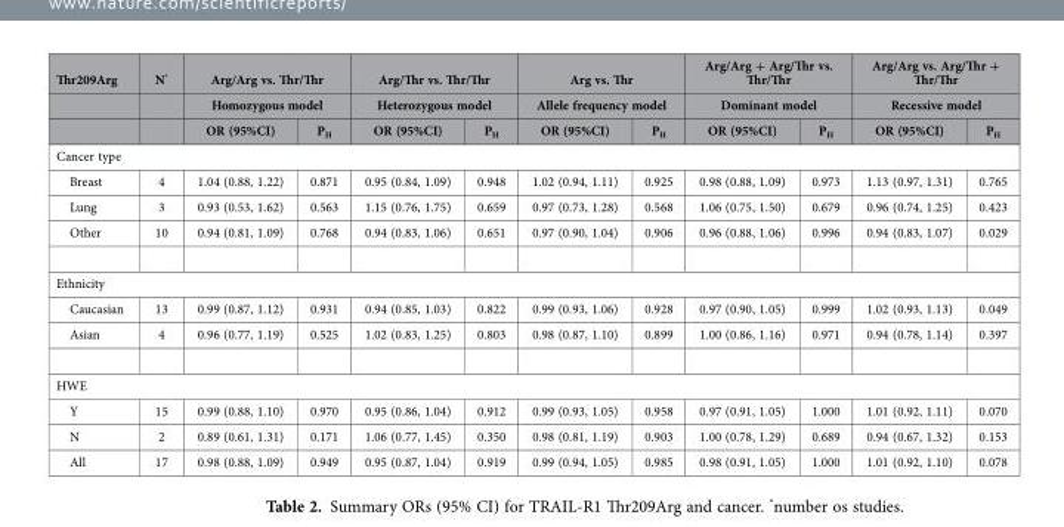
<table><thead><tr><td rowspan="3">Thr209Arg</td><td rowspan="3">N*</td><td rowspan="2" colspan="2">Arg/Arg vs. Thr/Thr Homozygous model</td><td rowspan="2" colspan="2">Arg/Thr vs. Thr/Thr Heterozygous model</td><td rowspan="2" colspan="2">Arg vs. Thr Allele frequency model</td><td rowspan="2" colspan="2">Arg/Arg + Arg/Thr vs. Thr/Thr Dominant model</td><td rowspan="2" colspan="2">Arg/Arg vs. Arg/Thr + Thr/Thr Recessive model</td></tr><tr></tr><tr><td>OR (95%CI)</td><td>P<sub>H</sub></td><td>OR (95%CI)</td><td>P<sub>H</sub></td><td>OR (95%CI)</td><td>P<sub>H</sub></td><td>OR (95%CI)</td><td>P<sub>H</sub></td><td>OR (95%CI)</td><td>P<sub>H</sub></td></tr></thead><tbody><tr><td colspan="12">Cancer type</td></tr><tr><td>Breast</td><td>4</td><td>1.04 (0.88, 1.22)</td><td>0.871</td><td>0.95 (0.84, 1.09)</td><td>0.948</td><td>1.02 (0.94, 1.11)</td><td>0.925</td><td>0.98 (0.88, 1.09)</td><td>0.973</td><td>1.13 (0.97, 1.31)</td><td>0.765</td></tr><tr><td>Lung</td><td>3</td><td>0.93 (0.53, 1.62)</td><td>0.563</td><td>1.15 (0.76, 1.75)</td><td>0.659</td><td>0.97 (0.73, 1.28)</td><td>0.568</td><td>1.06 (0.75, 1.50)</td><td>0.679</td><td>0.96 (0.74, 1.25)</td><td>0.423</td></tr><tr><td>Other</td><td>10</td><td>0.94 (0.81, 1.09)</td><td>0.768</td><td>0.94 (0.83, 1.06)</td><td>0.651</td><td>0.97 (0.90, 1.04)</td><td>0.906</td><td>0.96 (0.88, 1.06)</td><td>0.996</td><td>0.94 (0.83, 1.07)</td><td>0.029</td></tr><tr><td colspan="12">Ethnicity</td></tr><tr><td>Caucasian</td><td>13</td><td>0.99 (0.87, 1.12)</td><td>0.931</td><td>0.94 (0.85, 1.03)</td><td>0.822</td><td>0.99 (0.93, 1.06)</td><td>0.928</td><td>0.97 (0.90, 1.05)</td><td>0.999</td><td>1.02 (0.93, 1.13)</td><td>0.049</td></tr><tr><td>Asian</td><td>4</td><td>0.96 (0.77, 1.19)</td><td>0.525</td><td>1.02 (0.83, 1.25)</td><td>0.803</td><td>0.98 (0.87, 1.10)</td><td>0.899</td><td>1.00 (0.86, 1.16)</td><td>0.971</td><td>0.94 (0.78, 1.14)</td><td>0.397</td></tr><tr><td colspan="12">HWE</td></tr><tr><td>Y</td><td>15</td><td>0.99 (0.88, 1.10)</td><td>0.970</td><td>0.95 (0.86, 1.04)</td><td>0.912</td><td>0.99 (0.93, 1.05)</td><td>0.958</td><td>0.97 (0.91, 1.05)</td><td>1.000</td><td>1.01 (0.92, 1.11)</td><td>0.070</td></tr><tr><td>N</td><td>2</td><td>0.89 (0.61, 1.31)</td><td>0.171</td><td>1.06 (0.77, 1.45)</td><td>0.350</td><td>0.98 (0.81, 1.19)</td><td>0.903</td><td>1.00 (0.78, 1.29)</td><td>0.689</td><td>0.94 (0.67, 1.32)</td><td>0.153</td></tr><tr><td>All</td><td>17</td><td>0.98 (0.88, 1.09)</td><td>0.949</td><td>0.95 (0.87, 1.04)</td><td>0.919</td><td>0.99 (0.94, 1.05)</td><td>0.985</td><td>0.98 (0.91, 1.05)</td><td>1.000</td><td>1.01 (0.92, 1.10)</td><td>0.078</td></tr></tbody></table>